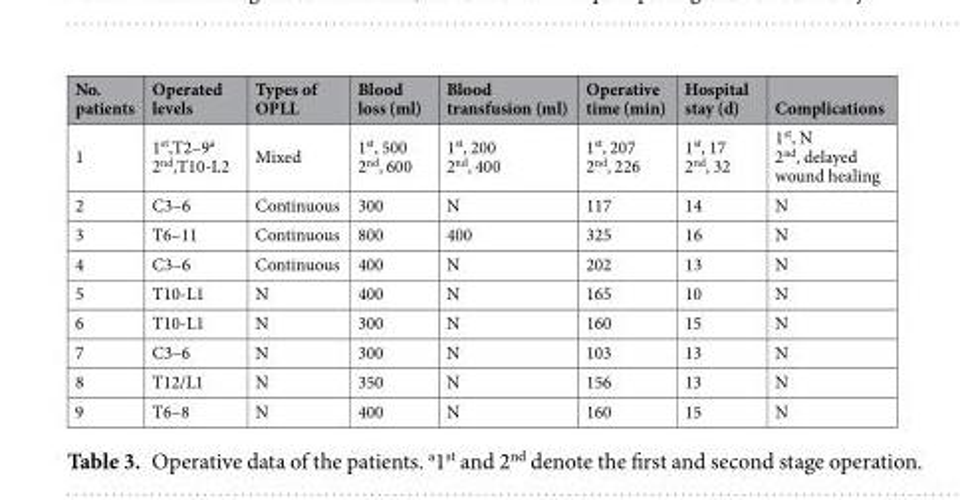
<table><thead><tr><td>No. patients</td><td>Operated levels</td><td>Types of OPLL</td><td>Blood loss (ml)</td><td>Blood transfusion (ml)</td><td>Operative time (min)</td><td>Hospital stay (d)</td><td>Complications</td></tr></thead><tbody><tr><td>1</td><td>1<sup>st</sup>,T2–9<sup>a</sup> 2<sup>nd</sup>,T10-L2</td><td>Mixed</td><td>1<sup>st</sup>, 500 2<sup>nd</sup>, 600</td><td>1<sup>st</sup>, 200 2<sup>nd</sup>, 400</td><td>1<sup>st</sup>, 207 2<sup>nd</sup>, 226</td><td>1<sup>st</sup>, 17 2<sup>nd</sup>, 32</td><td>1<sup>st</sup>, N 2<sup>nd</sup>, delayed wound healing</td></tr><tr><td>2</td><td>C3–6</td><td>Continuous</td><td>300</td><td>N</td><td>117</td><td>14</td><td>N</td></tr><tr><td>3</td><td>T6–11</td><td>Continuous</td><td>800</td><td>400</td><td>325</td><td>16</td><td>N</td></tr><tr><td>4</td><td>C3–6</td><td>Continuous</td><td>400</td><td>N</td><td>202</td><td>13</td><td>N</td></tr><tr><td>5</td><td>T10-L1</td><td>N</td><td>400</td><td>N</td><td>165</td><td>10</td><td>N</td></tr><tr><td>6</td><td>T10-L1</td><td>N</td><td>300</td><td>N</td><td>160</td><td>15</td><td>N</td></tr><tr><td>7</td><td>C3–6</td><td>N</td><td>300</td><td>N</td><td>103</td><td>13</td><td>N</td></tr><tr><td>8</td><td>T12/L1</td><td>N</td><td>350</td><td>N</td><td>156</td><td>13</td><td>N</td></tr><tr><td>9</td><td>T6–8</td><td>N</td><td>400</td><td>N</td><td>160</td><td>15</td><td>N</td></tr></tbody></table>